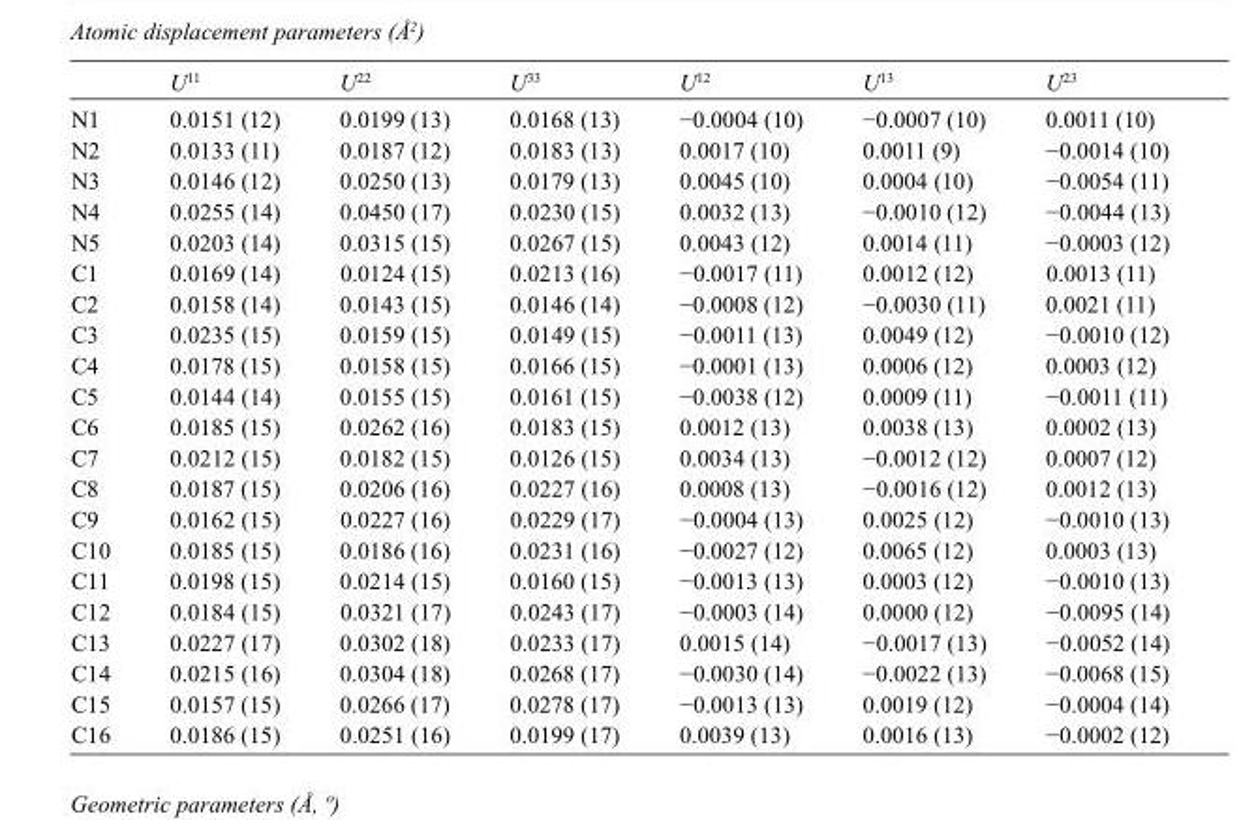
<table><thead><tr><td></td><td>U<sup>11</sup></td><td>U<sup>22</sup></td><td>U<sup>33</sup></td><td>U<sup>12</sup></td><td>U<sup>13</sup></td><td>U<sup>23</sup></td></tr></thead><tbody><tr><td>N1</td><td>0.0151 (12)</td><td>0.0199 (13)</td><td>0.0168 (13)</td><td>−0.0004 (10)</td><td>−0.0007 (10)</td><td>0.0011 (10)</td></tr><tr><td>N2</td><td>0.0133 (11)</td><td>0.0187 (12)</td><td>0.0183 (13)</td><td>0.0017 (10)</td><td>0.0011 (9)</td><td>−0.0014 (10)</td></tr><tr><td>N3</td><td>0.0146 (12)</td><td>0.0250 (13)</td><td>0.0179 (13)</td><td>0.0045 (10)</td><td>0.0004 (10)</td><td>−0.0054 (11)</td></tr><tr><td>N4</td><td>0.0255 (14)</td><td>0.0450 (17)</td><td>0.0230 (15)</td><td>0.0032 (13)</td><td>−0.0010 (12)</td><td>−0.0044 (13)</td></tr><tr><td>N5</td><td>0.0203 (14)</td><td>0.0315 (15)</td><td>0.0267 (15)</td><td>0.0043 (12)</td><td>0.0014 (11)</td><td>−0.0003 (12)</td></tr><tr><td>C1</td><td>0.0169 (14)</td><td>0.0124 (15)</td><td>0.0213 (16)</td><td>−0.0017 (11)</td><td>0.0012 (12)</td><td>0.0013 (11)</td></tr><tr><td>C2</td><td>0.0158 (14)</td><td>0.0143 (15)</td><td>0.0146 (14)</td><td>−0.0008 (12)</td><td>−0.0030 (11)</td><td>0.0021 (11)</td></tr><tr><td>C3</td><td>0.0235 (15)</td><td>0.0159 (15)</td><td>0.0149 (15)</td><td>−0.0011 (13)</td><td>0.0049 (12)</td><td>−0.0010 (12)</td></tr><tr><td>C4</td><td>0.0178 (15)</td><td>0.0158 (15)</td><td>0.0166 (15)</td><td>−0.0001 (13)</td><td>0.0006 (12)</td><td>0.0003 (12)</td></tr><tr><td>C5</td><td>0.0144 (14)</td><td>0.0155 (15)</td><td>0.0161 (15)</td><td>−0.0038 (12)</td><td>0.0009 (11)</td><td>−0.0011 (11)</td></tr><tr><td>C6</td><td>0.0185 (15)</td><td>0.0262 (16)</td><td>0.0183 (15)</td><td>0.0012 (13)</td><td>0.0038 (13)</td><td>0.0002 (13)</td></tr><tr><td>C7</td><td>0.0212 (15)</td><td>0.0182 (15)</td><td>0.0126 (15)</td><td>0.0034 (13)</td><td>−0.0012 (12)</td><td>0.0007 (12)</td></tr><tr><td>C8</td><td>0.0187 (15)</td><td>0.0206 (16)</td><td>0.0227 (16)</td><td>0.0008 (13)</td><td>−0.0016 (12)</td><td>0.0012 (13)</td></tr><tr><td>C9</td><td>0.0162 (15)</td><td>0.0227 (16)</td><td>0.0229 (17)</td><td>−0.0004 (13)</td><td>0.0025 (12)</td><td>−0.0010 (13)</td></tr><tr><td>C10</td><td>0.0185 (15)</td><td>0.0186 (16)</td><td>0.0231 (16)</td><td>−0.0027 (12)</td><td>0.0065 (12)</td><td>0.0003 (13)</td></tr><tr><td>C11</td><td>0.0198 (15)</td><td>0.0214 (15)</td><td>0.0160 (15)</td><td>−0.0013 (13)</td><td>0.0003 (12)</td><td>−0.0010 (13)</td></tr><tr><td>C12</td><td>0.0184 (15)</td><td>0.0321 (17)</td><td>0.0243 (17)</td><td>−0.0003 (14)</td><td>0.0000 (12)</td><td>−0.0095 (14)</td></tr><tr><td>C13</td><td>0.0227 (17)</td><td>0.0302 (18)</td><td>0.0233 (17)</td><td>0.0015 (14)</td><td>−0.0017 (13)</td><td>−0.0052 (14)</td></tr><tr><td>C14</td><td>0.0215 (16)</td><td>0.0304 (18)</td><td>0.0268 (17)</td><td>−0.0030 (14)</td><td>−0.0022 (13)</td><td>−0.0068 (15)</td></tr><tr><td>C15</td><td>0.0157 (15)</td><td>0.0266 (17)</td><td>0.0278 (17)</td><td>−0.0013 (13)</td><td>0.0019 (12)</td><td>−0.0004 (14)</td></tr><tr><td>C16</td><td>0.0186 (15)</td><td>0.0251 (16)</td><td>0.0199 (17)</td><td>0.0039 (13)</td><td>0.0016 (13)</td><td>−0.0002 (12)</td></tr></tbody></table>